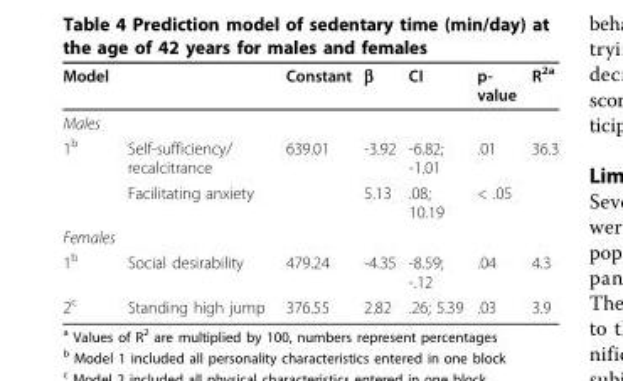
<table><thead><tr><td>Model</td><td></td><td>Constant</td><td>β</td><td>CI</td><td>p- value</td><td>R<sup>2a</sup></td></tr></thead><tbody><tr><td colspan="7">Males</td></tr><tr><td rowspan="2">1<sup>b</sup></td><td>Self-sufficiency/ recalcitrance</td><td>639.01</td><td>-3.92</td><td>-6.82; -1.01</td><td>.01</td><td>36.3</td></tr><tr><td>Facilitating anxiety</td><td></td><td>5.13</td><td>.08; 10.19</td><td>&lt; .05</td><td></td></tr><tr><td colspan="7">Females</td></tr><tr><td>1<sup>b</sup></td><td>Social desirability</td><td>479.24</td><td>-4.35</td><td>-8.59; -.12</td><td>.04</td><td>4.3</td></tr><tr><td>2<sup>c</sup></td><td>Standing high jump</td><td>376.55</td><td>2.82</td><td>.26; 5.39</td><td>.03</td><td>3.9</td></tr></tbody></table>